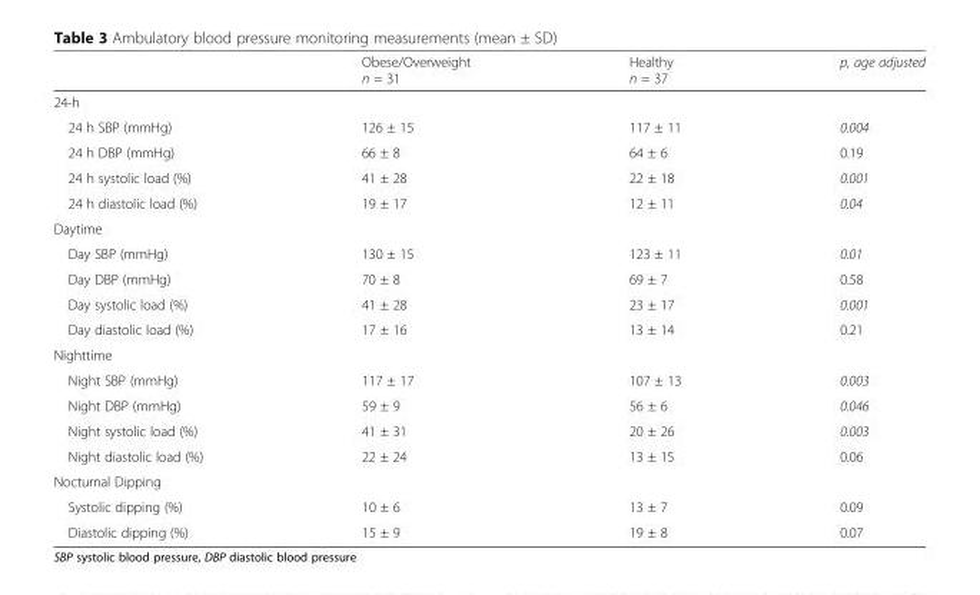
<table><thead><tr><td></td><td>Obese/Overweight n = 31</td><td>Healthy n = 37</td><td>p, age adjusted</td></tr></thead><tbody><tr><td colspan="4">24-h</td></tr><tr><td>24 h SBP (mmHg)</td><td>126 ± 15</td><td>117 ± 11</td><td>0.004</td></tr><tr><td>24 h DBP (mmHg)</td><td>66 ± 8</td><td>64 ± 6</td><td>0.19</td></tr><tr><td>24 h systolic load (%)</td><td>41 ± 28</td><td>22 ± 18</td><td>0.001</td></tr><tr><td>24 h diastolic load (%)</td><td>19 ± 17</td><td>12 ± 11</td><td>0.04</td></tr><tr><td colspan="4">Daytime</td></tr><tr><td>Day SBP (mmHg)</td><td>130 ± 15</td><td>123 ± 11</td><td>0.01</td></tr><tr><td>Day DBP (mmHg)</td><td>70 ± 8</td><td>69 ± 7</td><td>0.58</td></tr><tr><td>Day systolic load (%)</td><td>41 ± 28</td><td>23 ± 17</td><td>0.001</td></tr><tr><td>Day diastolic load (%)</td><td>17 ± 16</td><td>13 ± 14</td><td>0.21</td></tr><tr><td colspan="4">Nighttime</td></tr><tr><td>Night SBP (mmHg)</td><td>117 ± 17</td><td>107 ± 13</td><td>0.003</td></tr><tr><td>Night DBP (mmHg)</td><td>59 ± 9</td><td>56 ± 6</td><td>0.046</td></tr><tr><td>Night systolic load (%)</td><td>41 ± 31</td><td>20 ± 26</td><td>0.003</td></tr><tr><td>Night diastolic load (%)</td><td>22 ± 24</td><td>13 ± 15</td><td>0.06</td></tr><tr><td colspan="4">Nocturnal Dipping</td></tr><tr><td>Systolic dipping (%)</td><td>10 ± 6</td><td>13 ± 7</td><td>0.09</td></tr><tr><td>Diastolic dipping (%)</td><td>15 ± 9</td><td>19 ± 8</td><td>0.07</td></tr></tbody></table>